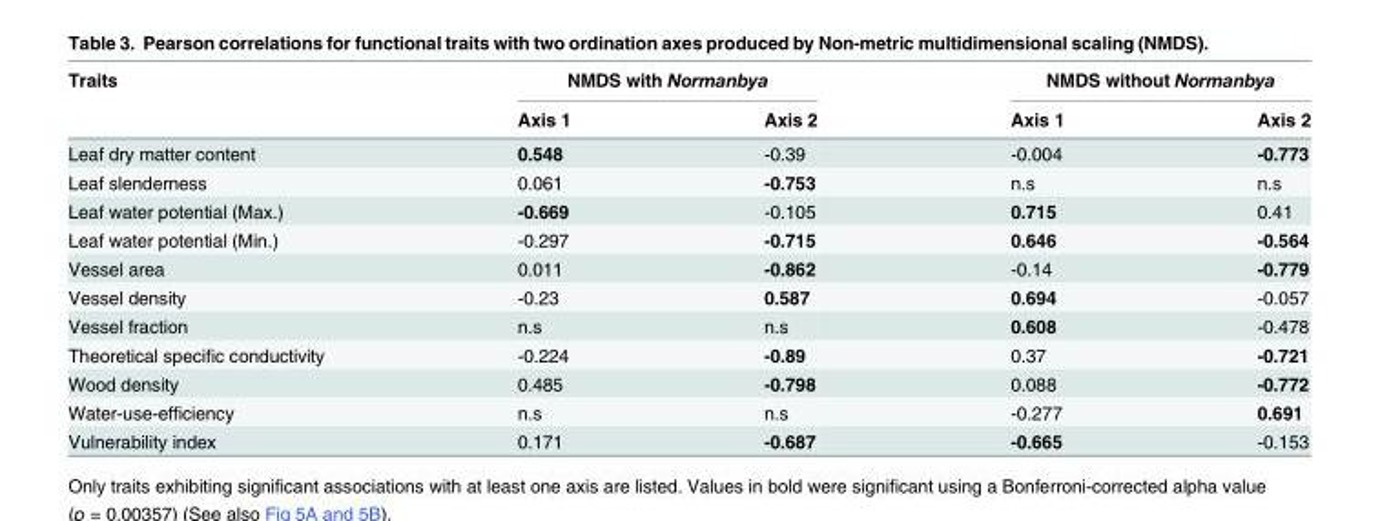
<table><thead><tr><td rowspan="2">Traits</td><td colspan="2">NMDS with Normanbya</td><td colspan="2">NMDS without Normanbya</td></tr><tr><td>Axis 1</td><td>Axis 2</td><td>Axis 1</td><td>Axis 2</td></tr></thead><tbody><tr><td>Leaf dry matter content</td><td>0.548</td><td>-0.39</td><td>-0.004</td><td>-0.773</td></tr><tr><td>Leaf slenderness</td><td>0.061</td><td>-0.753</td><td>n.s</td><td>n.s</td></tr><tr><td>Leaf water potential (Max.)</td><td>-0.669</td><td>-0.105</td><td>0.715</td><td>0.41</td></tr><tr><td>Leaf water potential (Min.)</td><td>-0.297</td><td>-0.715</td><td>0.646</td><td>-0.564</td></tr><tr><td>Vessel area</td><td>0.011</td><td>-0.862</td><td>-0.14</td><td>-0.779</td></tr><tr><td>Vessel density</td><td>-0.23</td><td>0.587</td><td>0.694</td><td>-0.057</td></tr><tr><td>Vessel fraction</td><td>n.s</td><td>n.s</td><td>0.608</td><td>-0.478</td></tr><tr><td>Theoretical specific conductivity</td><td>-0.224</td><td>-0.89</td><td>0.37</td><td>-0.721</td></tr><tr><td>Wood density</td><td>0.485</td><td>-0.798</td><td>0.088</td><td>-0.772</td></tr><tr><td>Water-use-efficiency</td><td>n.s</td><td>n.s</td><td>-0.277</td><td>0.691</td></tr><tr><td>Vulnerability index</td><td>0.171</td><td>-0.687</td><td>-0.665</td><td>-0.153</td></tr></tbody></table>